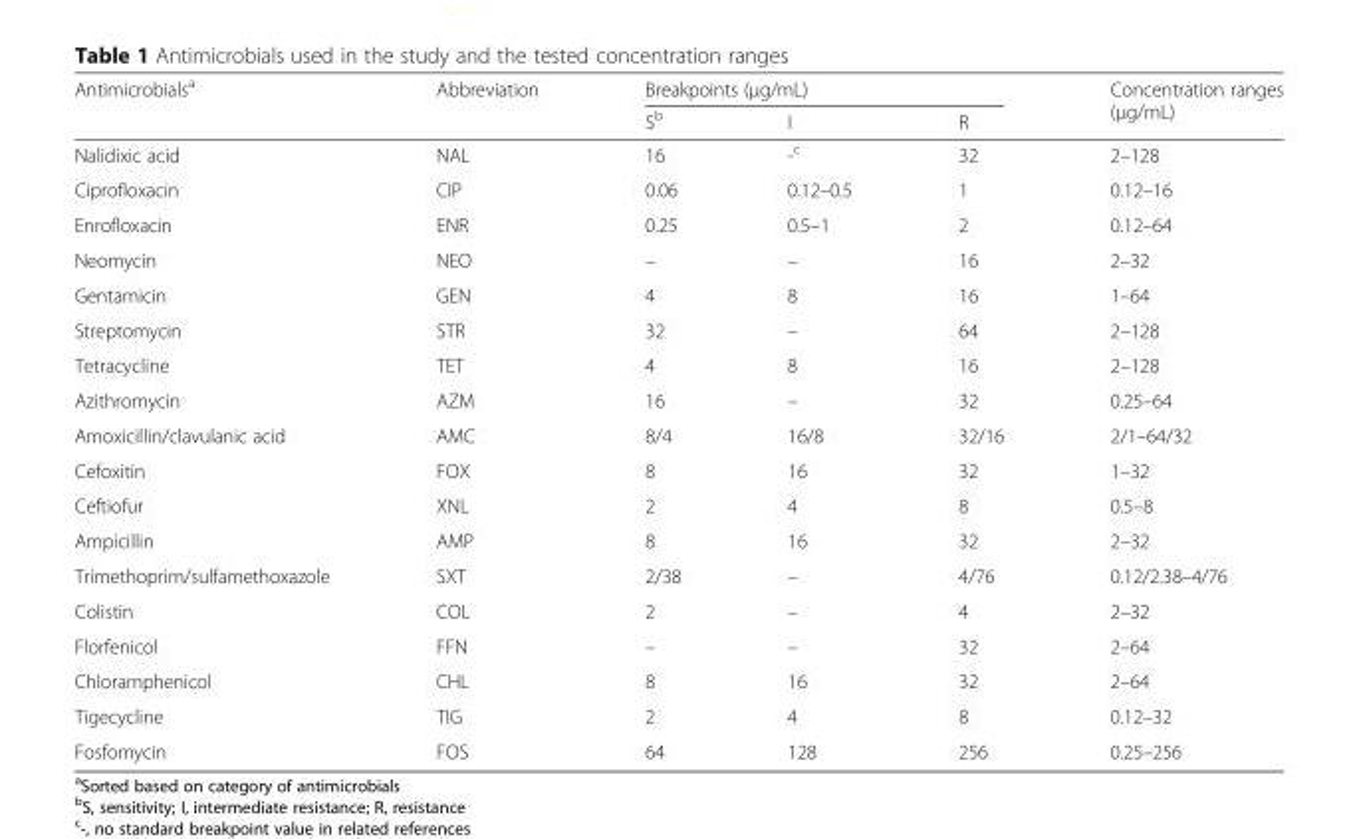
<table><thead><tr><td rowspan="2">Antimicrobials<sup>a</sup></td><td rowspan="2">Abbreviation</td><td colspan="3">Breakpoints (μg/mL)</td><td rowspan="2">Concentration ranges (μg/mL)</td></tr><tr><td>S<sup>b</sup></td><td>I</td><td>R</td></tr></thead><tbody><tr><td>Nalidixic acid</td><td>NAL</td><td>16</td><td>-<sup>c</sup></td><td>32</td><td>2–128</td></tr><tr><td>Ciprofloxacin</td><td>CIP</td><td>0.06</td><td>0.12–0.5</td><td>1</td><td>0.12–16</td></tr><tr><td>Enrofloxacin</td><td>ENR</td><td>0.25</td><td>0.5–1</td><td>2</td><td>0.12–64</td></tr><tr><td>Neomycin</td><td>NEO</td><td>–</td><td>–</td><td>16</td><td>2–32</td></tr><tr><td>Gentamicin</td><td>GEN</td><td>4</td><td>8</td><td>16</td><td>1–64</td></tr><tr><td>Streptomycin</td><td>STR</td><td>32</td><td>–</td><td>64</td><td>2–128</td></tr><tr><td>Tetracycline</td><td>TET</td><td>4</td><td>8</td><td>16</td><td>2–128</td></tr><tr><td>Azithromycin</td><td>AZM</td><td>16</td><td>–</td><td>32</td><td>0.25–64</td></tr><tr><td>Amoxicillin/clavulanic acid</td><td>AMC</td><td>8/4</td><td>16/8</td><td>32/16</td><td>2/1–64/32</td></tr><tr><td>Cefoxitin</td><td>FOX</td><td>8</td><td>16</td><td>32</td><td>1–32</td></tr><tr><td>Ceftiofur</td><td>XNL</td><td>2</td><td>4</td><td>8</td><td>0.5–8</td></tr><tr><td>Ampicillin</td><td>AMP</td><td>8</td><td>16</td><td>32</td><td>2–32</td></tr><tr><td>Trimethoprim/sulfamethoxazole</td><td>SXT</td><td>2/38</td><td>–</td><td>4/76</td><td>0.12/2.38–4/76</td></tr><tr><td>Colistin</td><td>COL</td><td>2</td><td>–</td><td>4</td><td>2–32</td></tr><tr><td>Florfenicol</td><td>FFN</td><td>–</td><td>–</td><td>32</td><td>2–64</td></tr><tr><td>Chloramphenicol</td><td>CHL</td><td>8</td><td>16</td><td>32</td><td>2–64</td></tr><tr><td>Tigecycline</td><td>TIG</td><td>2</td><td>4</td><td>8</td><td>0.12–32</td></tr><tr><td>Fosfomycin</td><td>FOS</td><td>64</td><td>128</td><td>256</td><td>0.25–256</td></tr></tbody></table>